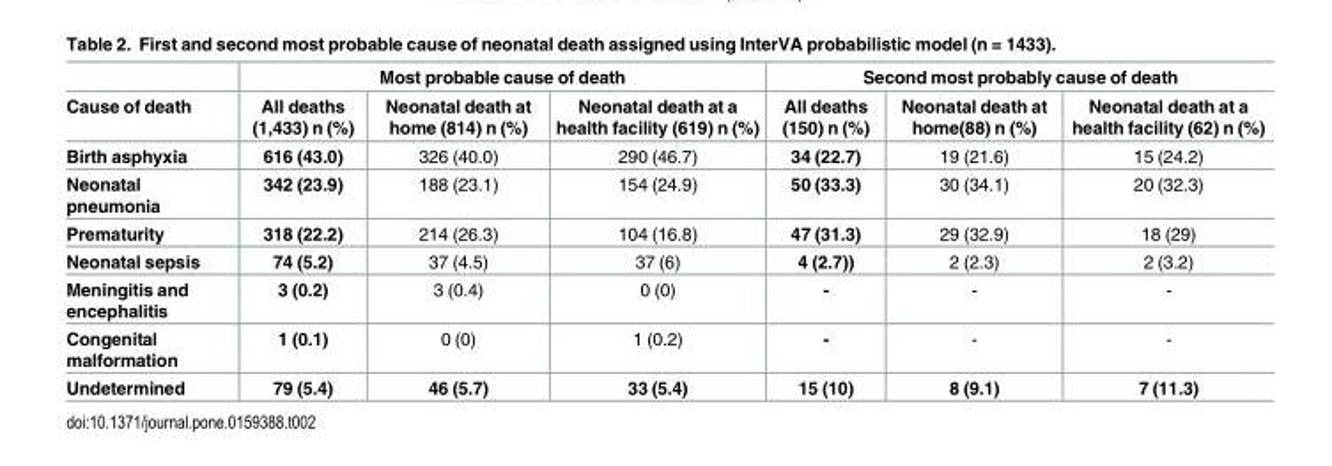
<table><thead><tr><td rowspan="2">Cause of death</td><td colspan="3">Most probable cause of death</td><td colspan="3">Second most probably cause of death</td></tr><tr><td>All deaths (1,433) n (%)</td><td>Neonatal death at home (814) n (%)</td><td>Neonatal death at a health facility (619) n (%)</td><td>All deaths (150) n (%)</td><td>Neonatal death at home(88) n (%)</td><td>Neonatal death at a health facility (62) n (%)</td></tr></thead><tbody><tr><td>Birth asphyxia</td><td>616 (43.0)</td><td>326 (40.0)</td><td>290 (46.7)</td><td>34 (22.7)</td><td>19 (21.6)</td><td>15 (24.2)</td></tr><tr><td>Neonatal pneumonia</td><td>342 (23.9)</td><td>188 (23.1)</td><td>154 (24.9)</td><td>50 (33.3)</td><td>30 (34.1)</td><td>20 (32.3)</td></tr><tr><td>Prematurity</td><td>318 (22.2)</td><td>214 (26.3)</td><td>104 (16.8)</td><td>47 (31.3)</td><td>29 (32.9)</td><td>18 (29)</td></tr><tr><td>Neonatal sepsis</td><td>74 (5.2)</td><td>37 (4.5)</td><td>37 (6)</td><td>4 (2.7))</td><td>2 (2.3)</td><td>2 (3.2)</td></tr><tr><td>Meningitis and encephalitis</td><td>3 (0.2)</td><td>3 (0.4)</td><td>0 (0)</td><td>-</td><td>-</td><td>-</td></tr><tr><td>Congenital malformation</td><td>1 (0.1)</td><td>0 (0)</td><td>1 (0.2)</td><td>-</td><td>-</td><td>-</td></tr><tr><td>Undetermined</td><td>79 (5.4)</td><td>46 (5.7)</td><td>33 (5.4)</td><td>15 (10)</td><td>8 (9.1)</td><td>7 (11.3)</td></tr></tbody></table>